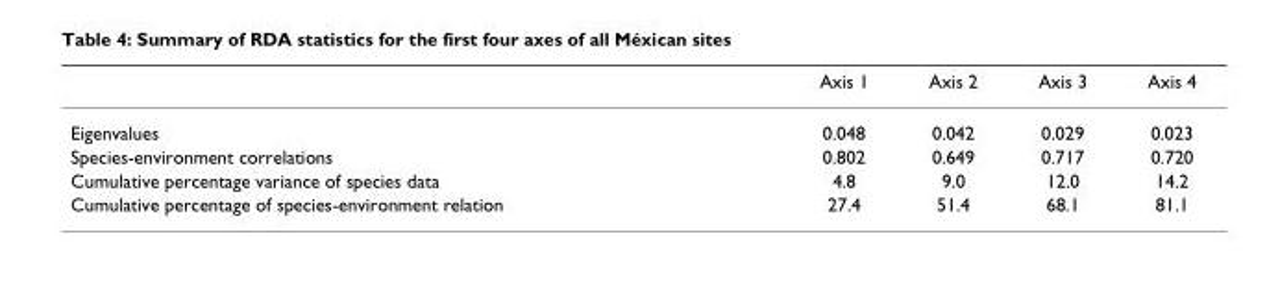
<table><thead><tr><td></td><td>Axis 1</td><td>Axis 2</td><td>Axis 3</td><td>Axis 4</td></tr></thead><tbody><tr><td>Eigenvalues</td><td>0.048</td><td>0.042</td><td>0.029</td><td>0.023</td></tr><tr><td>Species-environment correlations</td><td>0.802</td><td>0.649</td><td>0.717</td><td>0.720</td></tr><tr><td>Cumulative percentage variance of species data</td><td>4.8</td><td>9.0</td><td>12.0</td><td>14.2</td></tr><tr><td>Cumulative percentage of species-environment relation</td><td>27.4</td><td>51.4</td><td>68.1</td><td>81.1</td></tr></tbody></table>